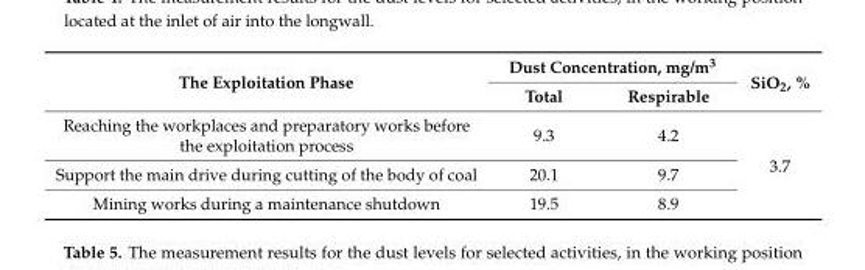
<table><thead><tr><td rowspan="2">The Exploitation Phase</td><td colspan="2">Dust Concentration, mg/m<sup>3</sup></td><td rowspan="2">SiO<sub>2</sub>, %</td></tr><tr><td>Total</td><td>Respirable</td></tr></thead><tbody><tr><td>Reaching the workplaces and preparatory works before the exploitation process</td><td>9.3</td><td>4.2</td><td rowspan="3">3.7</td></tr><tr><td>Support the main drive during cutting of the body of coal</td><td>20.1</td><td>9.7</td></tr><tr><td>Mining works during a maintenance shutdown</td><td>19.5</td><td>8.9</td></tr></tbody></table>